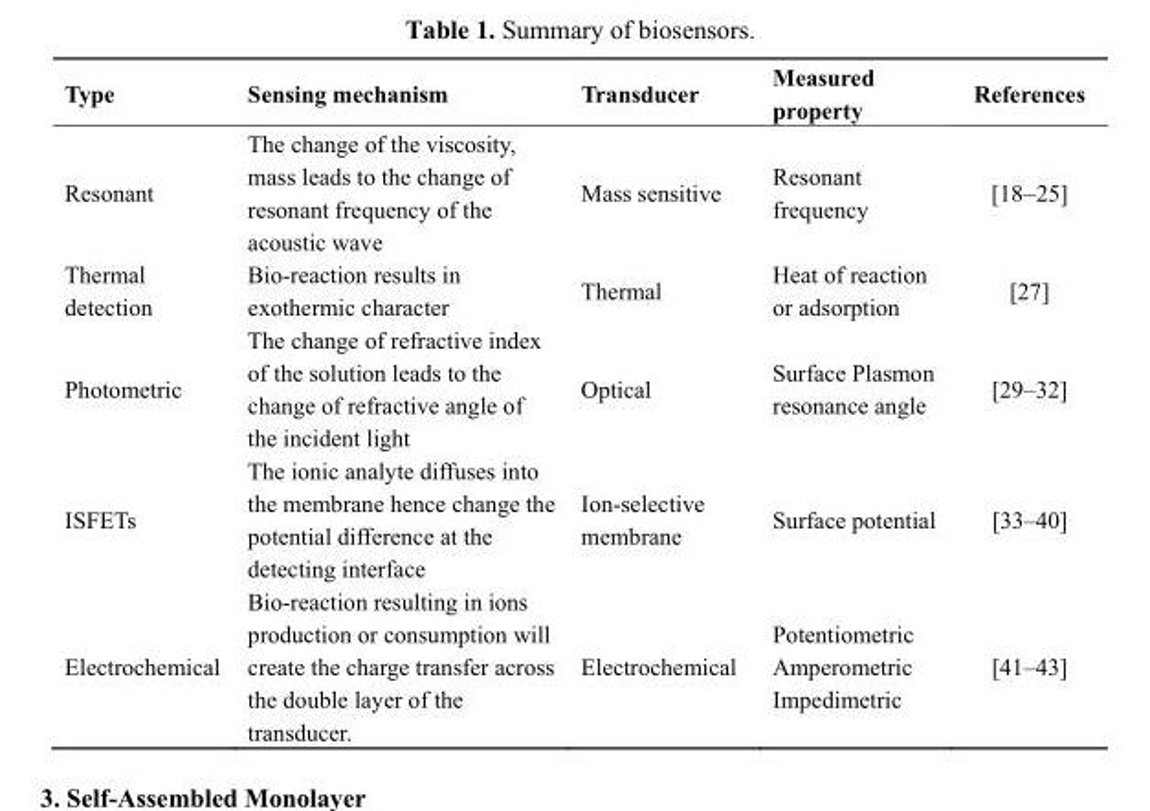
<table><thead><tr><td>Type</td><td>Sensing mechanism</td><td>Transducer</td><td>Measured property</td><td>References</td></tr></thead><tbody><tr><td>Resonant</td><td>The change of the viscosity, mass leads to the change of resonant frequency of the acoustic wave</td><td>Mass sensitive</td><td>Resonant frequency</td><td>[18–25]</td></tr><tr><td>Thermal detection</td><td>Bio-reaction results in exothermic character</td><td>Thermal</td><td>Heat of reaction or adsorption</td><td>[27]</td></tr><tr><td>Photometric</td><td>The change of refractive index of the solution leads to the change of refractive angle of the incident light</td><td>Optical</td><td>Surface Plasmon resonance angle</td><td>[29–32]</td></tr><tr><td>ISFETs</td><td>The ionic analyte diffuses into the membrane hence change the potential difference at the detecting interface</td><td>Ion-selective membrane</td><td>Surface potential</td><td>[33–40]</td></tr><tr><td>Electrochemical</td><td>Bio-reaction resulting in ions production or consumption will create the charge transfer across the double layer of the transducer.</td><td>Electrochemical</td><td>Potentiometric Amperometric Impedimetric</td><td>[41–43]</td></tr></tbody></table>